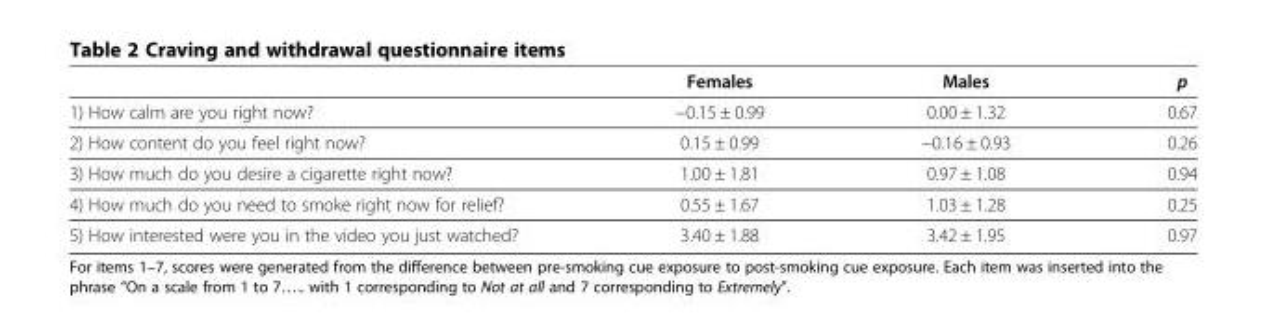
<table><thead><tr><td></td><td>Females</td><td>Males</td><td>p</td></tr></thead><tbody><tr><td>1) How calm are you right now?</td><td>−0.15 ± 0.99</td><td>0.00 ± 1.32</td><td>0.67</td></tr><tr><td>2) How content do you feel right now?</td><td>0.15 ± 0.99</td><td>−0.16 ± 0.93</td><td>0.26</td></tr><tr><td>3) How much do you desire a cigarette right now?</td><td>1.00 ± 1.81</td><td>0.97 ± 1.08</td><td>0.94</td></tr><tr><td>4) How much do you need to smoke right now for relief?</td><td>0.55 ± 1.67</td><td>1.03 ± 1.28</td><td>0.25</td></tr><tr><td>5) How interested were you in the video you just watched?</td><td>3.40 ± 1.88</td><td>3.42 ± 1.95</td><td>0.97</td></tr></tbody></table>